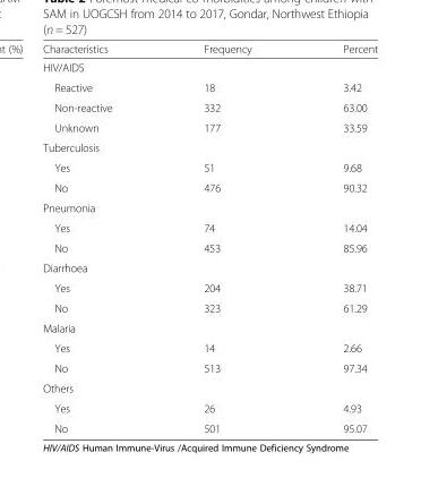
<table><thead><tr><td>Characteristics</td><td>Frequency</td><td>Percent</td></tr></thead><tbody><tr><td colspan="3">HIV/AIDS</td></tr><tr><td>Reactive</td><td>18</td><td>3.42</td></tr><tr><td>Non-reactive</td><td>332</td><td>63.00</td></tr><tr><td>Unknown</td><td>177</td><td>33.59</td></tr><tr><td colspan="3">Tuberculosis</td></tr><tr><td>Yes</td><td>51</td><td>9.68</td></tr><tr><td>No</td><td>476</td><td>90.32</td></tr><tr><td colspan="3">Pneumonia</td></tr><tr><td>Yes</td><td>74</td><td>14.04</td></tr><tr><td>No</td><td>453</td><td>85.96</td></tr><tr><td colspan="3">Diarrhoea</td></tr><tr><td>Yes</td><td>204</td><td>38.71</td></tr><tr><td>No</td><td>323</td><td>61.29</td></tr><tr><td colspan="3">Malaria</td></tr><tr><td>Yes</td><td>14</td><td>2.66</td></tr><tr><td>No</td><td>513</td><td>97.34</td></tr><tr><td colspan="3">Others</td></tr><tr><td>Yes</td><td>26</td><td>4.93</td></tr><tr><td>No</td><td>501</td><td>95.07</td></tr></tbody></table>